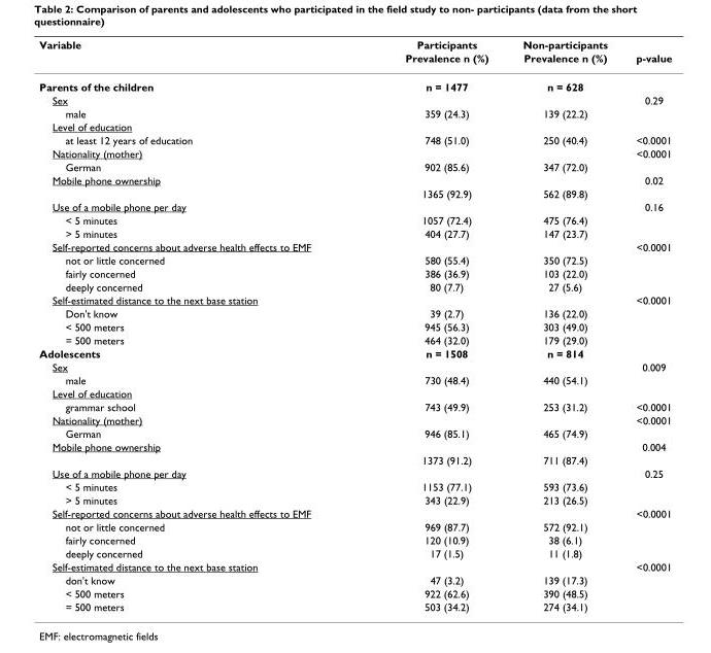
<table><thead><tr><td rowspan="2">Variable</td><td rowspan="2">Participants Prevalence n (%)</td><td rowspan="2">Non-participants Prevalence n (%)</td><td rowspan="2">p-value</td></tr><tr></tr></thead><tbody><tr><td>Parents of the children</td><td>n = 1477</td><td>n = 628</td><td></td></tr><tr><td>Sex</td><td></td><td></td><td>0.29</td></tr><tr><td>male</td><td>359 (24.3)</td><td>139 (22.2)</td><td></td></tr><tr><td colspan="4">Level of education</td></tr><tr><td>at least 12 years of education</td><td>748 (51.0)</td><td>250 (40.4)</td><td>&lt;0.0001</td></tr><tr><td>Nationality (mother)</td><td></td><td></td><td>&lt;0.0001</td></tr><tr><td>German</td><td>902 (85.6)</td><td>347 (72.0)</td><td></td></tr><tr><td rowspan="2">Mobile phone ownership</td><td></td><td></td><td>0.02</td></tr><tr><td>1365 (92.9)</td><td>562 (89.8)</td><td></td></tr><tr><td>Use of a mobile phone per day</td><td></td><td></td><td>0.16</td></tr><tr><td>&lt; 5 minutes</td><td>1057 (72.4)</td><td>475 (76.4)</td><td></td></tr><tr><td>&gt; 5 minutes</td><td>404 (27.7)</td><td>147 (23.7)</td><td></td></tr><tr><td>Self-reported concerns about adverse health effects to EMF</td><td></td><td></td><td>&lt;0.0001</td></tr><tr><td>not or little concerned</td><td>580 (55.4)</td><td>350 (72.5)</td><td></td></tr><tr><td>fairly concerned</td><td>386 (36.9)</td><td>103 (22.0)</td><td></td></tr><tr><td>deeply concerned</td><td>80 (7.7)</td><td>27 (5.6)</td><td></td></tr><tr><td>Self-estimated distance to the next base station</td><td></td><td></td><td>&lt;0.0001</td></tr><tr><td>Don&#x27;t know</td><td>39 (2.7)</td><td>136 (22.0)</td><td></td></tr><tr><td>&lt; 500 meters</td><td>945 (56.3)</td><td>303 (49.0)</td><td></td></tr><tr><td>= 500 meters</td><td>464 (32.0)</td><td>179 (29.0)</td><td></td></tr><tr><td>Adolescents</td><td>n = 1508</td><td>n = 814</td><td></td></tr><tr><td>Sex</td><td></td><td></td><td>0.009</td></tr><tr><td>male</td><td>730 (48.4)</td><td>440 (54.1)</td><td></td></tr><tr><td colspan="4">Level of education</td></tr><tr><td>grammar school</td><td>743 (49.9)</td><td>253 (31.2)</td><td>&lt;0.0001</td></tr><tr><td>Nationality (mother)</td><td></td><td></td><td>&lt;0.0001</td></tr><tr><td>German</td><td>946 (85.1)</td><td>465 (74.9)</td><td></td></tr><tr><td rowspan="2">Mobile phone ownership</td><td></td><td></td><td>0.004</td></tr><tr><td>1373 (91.2)</td><td>711 (87.4)</td><td></td></tr><tr><td>Use of a mobile phone per day</td><td></td><td></td><td>0.25</td></tr><tr><td>&lt; 5 minutes</td><td>1153 (77.1)</td><td>593 (73.6)</td><td></td></tr><tr><td>&gt; 5 minutes</td><td>343 (22.9)</td><td>213 (26.5)</td><td></td></tr><tr><td>Self-reported concerns about adverse health effects to EMF</td><td></td><td></td><td>&lt;0.0001</td></tr><tr><td>not or little concerned</td><td>969 (87.7)</td><td>572 (92.1)</td><td></td></tr><tr><td>fairly concerned</td><td>120 (10.9)</td><td>38 (6.1)</td><td></td></tr><tr><td>deeply concerned</td><td>17 (1.5)</td><td>11 (1.8)</td><td></td></tr><tr><td>Self-estimated distance to the next base station</td><td></td><td></td><td>&lt;0.0001</td></tr><tr><td>don&#x27;t know</td><td>47 (3.2)</td><td>139 (17.3)</td><td></td></tr><tr><td>&lt; 500 meters</td><td>922 (62.6)</td><td>390 (48.5)</td><td></td></tr><tr><td>= 500 meters</td><td>503 (34.2)</td><td>274 (34.1)</td><td></td></tr></tbody></table>